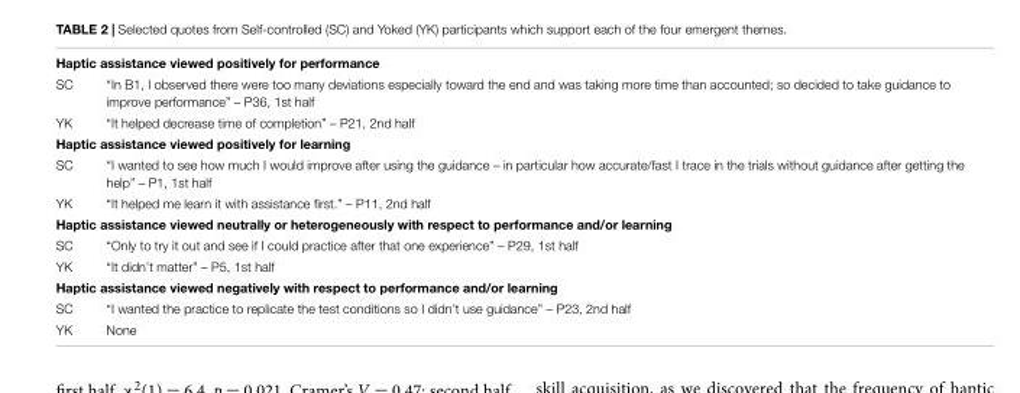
<table><tbody><tr><td colspan="2">Haptic assistance viewed positively for performance</td></tr><tr><td>SC</td><td>“In B1, I observed there were too many deviations especially toward the end and was taking more time than accounted; so decided to take guidance to improve performance” – P36, 1st half</td></tr><tr><td>YK</td><td>“It helped decrease time of completion” – P21, 2nd half</td></tr><tr><td colspan="2">Haptic assistance viewed positively for learning</td></tr><tr><td>SC</td><td>“I wanted to see how much I would improve after using the guidance – in particular how accurate/fast I trace in the trials without guidance after getting the help” – P1, 1st half</td></tr><tr><td>YK</td><td>“It helped me learn it with assistance first.” – P11, 2nd half</td></tr><tr><td colspan="2">Haptic assistance viewed neutrally or heterogeneously with respect to performance and/or learning</td></tr><tr><td>SC</td><td>“Only to try it out and see if I could practice after that one experience” – P29, 1st half</td></tr><tr><td>YK</td><td>“It didn’t matter” – P5, 1st half</td></tr><tr><td colspan="2">Haptic assistance viewed negatively with respect to performance and/or learning</td></tr><tr><td>SC</td><td>“I wanted the practice to replicate the test conditions so I didn’t use guidance” – P23, 2nd half</td></tr><tr><td>YK</td><td>None</td></tr></tbody></table>